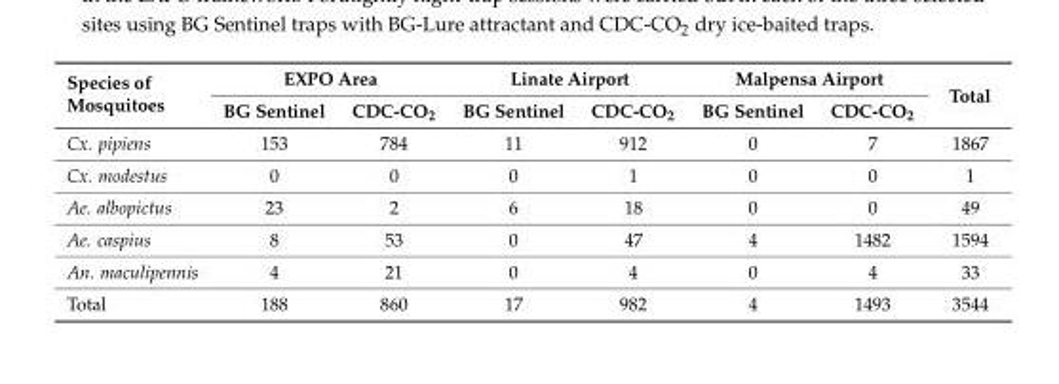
<table><thead><tr><td rowspan="2">Species of Mosquitoes</td><td colspan="2">EXPO Area</td><td colspan="2">Linate Airport</td><td colspan="2">Malpensa Airport</td><td rowspan="2">Total</td></tr><tr><td>BG Sentinel</td><td>CDC-CO<sub>2</sub></td><td>BG Sentinel</td><td>CDC-CO<sub>2</sub></td><td>BG Sentinel</td><td>CDC-CO<sub>2</sub></td></tr></thead><tbody><tr><td>Cx. pipiens</td><td>153</td><td>784</td><td>11</td><td>912</td><td>0</td><td>7</td><td>1867</td></tr><tr><td>Cx. modestus</td><td>0</td><td>0</td><td>0</td><td>1</td><td>0</td><td>0</td><td>1</td></tr><tr><td>Ae. albopictus</td><td>23</td><td>2</td><td>6</td><td>18</td><td>0</td><td>0</td><td>49</td></tr><tr><td>Ae. caspius</td><td>8</td><td>53</td><td>0</td><td>47</td><td>4</td><td>1482</td><td>1594</td></tr><tr><td>An. maculipennis</td><td>4</td><td>21</td><td>0</td><td>4</td><td>0</td><td>4</td><td>33</td></tr><tr><td>Total</td><td>188</td><td>860</td><td>17</td><td>982</td><td>4</td><td>1493</td><td>3544</td></tr></tbody></table>